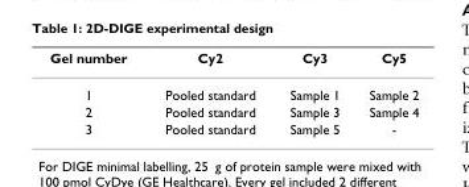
<table><thead><tr><td>Gel number</td><td>Cy2</td><td>Cy3</td><td>Cy5</td></tr></thead><tbody><tr><td>1</td><td>Pooled standard</td><td>Sample 1</td><td>Sample 2</td></tr><tr><td>2</td><td>Pooled standard</td><td>Sample 3</td><td>Sample 4</td></tr><tr><td>3</td><td>Pooled standard</td><td>Sample 5</td><td>-</td></tr></tbody></table>